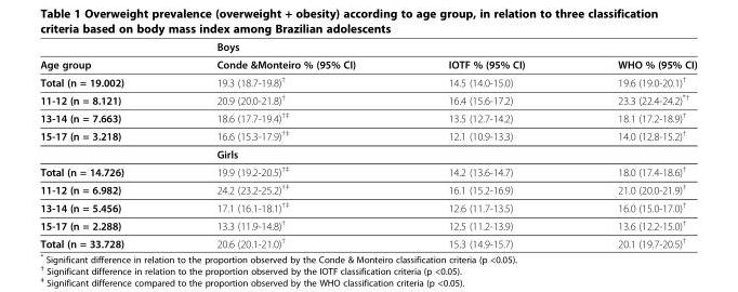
<table><thead><tr><td rowspan="2">Age group</td><td colspan="3">Boys</td></tr><tr><td>Conde &amp;Monteiro % (95% CI)</td><td>IOTF % (95% CI)</td><td>WHO % (95% CI)</td></tr></thead><tbody><tr><td>Total (n = 19.002)</td><td>19.3 (18.7-19.8)†</td><td>14.5 (14.0-15.0)</td><td>19.6 (19.0-20.1)†</td></tr><tr><td>11-12 (n = 8.121)</td><td>20.9 (20.0-21.8)†</td><td>16.4 (15.6-17.2)</td><td>23.3 (22.4-24.2)*†</td></tr><tr><td>13-14 (n = 7.663)</td><td>18.6 (17.7-19.4)†‡</td><td>13.5 (12.7-14.2)</td><td>18.1 (17.2-18.9)†</td></tr><tr><td rowspan="2">15-17 (n = 3.218)</td><td>16.6 (15.3-17.9)†‡</td><td>12.1 (10.9-13.3)</td><td>14.0 (12.8-15.2)†</td></tr><tr><td colspan="3">Girls</td></tr><tr><td>Total (n = 14.726)</td><td>19.9 (19.2-20.5)†‡</td><td>14.2 (13.6-14.7)</td><td>18.0 (17.4-18.6)†</td></tr><tr><td>11-12 (n = 6.982)</td><td>24.2 (23.2-25.2)†‡</td><td>16.1 (15.2-16.9)</td><td>21.0 (20.0-21.9)†</td></tr><tr><td>13-14 (n = 5.456)</td><td>17.1 (16.1-18.1)†‡</td><td>12.6 (11.7-13.5)</td><td>16.0 (15.0-17.0)†</td></tr><tr><td>15-17 (n = 2.288)</td><td>13.3 (11.9-14.8)†</td><td>12.5 (11.2-13.9)</td><td>13.6 (12.2-15.0)†</td></tr><tr><td>Total (n = 33.728)</td><td>20.6 (20.1-21.0)†</td><td>15.3 (14.9-15.7)</td><td>20.1 (19.7-20.5)†</td></tr></tbody></table>